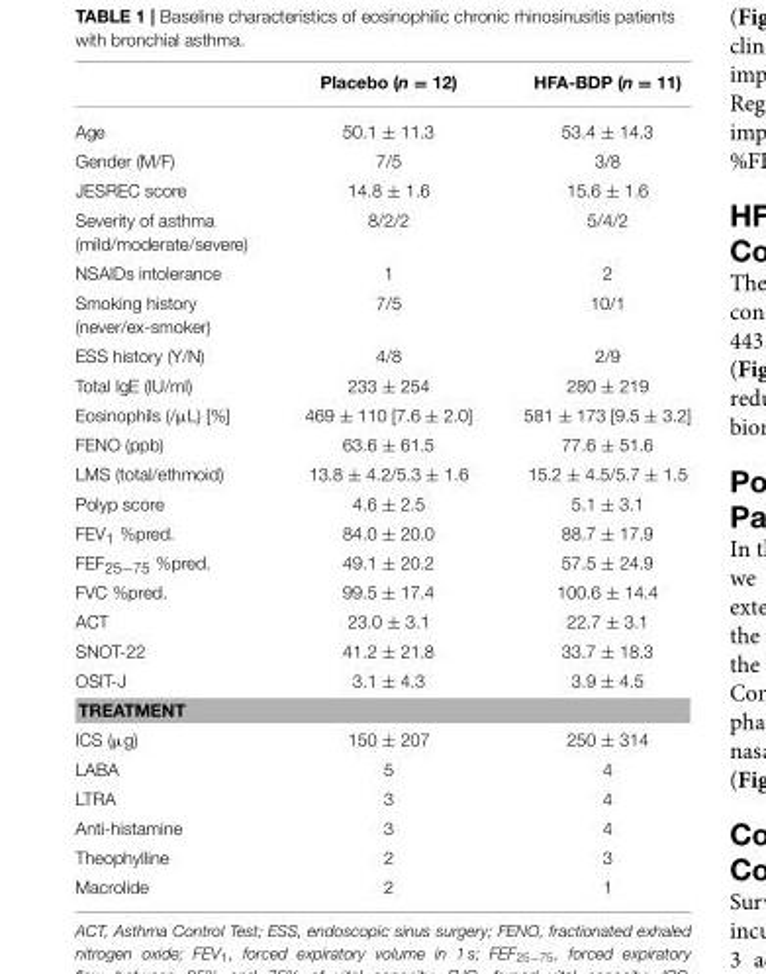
<table><thead><tr><td></td><td>Placebo (n = 12)</td><td>HFA-BDP (n = 11)</td></tr></thead><tbody><tr><td>Age</td><td>50.1 ± 11.3</td><td>53.4 ± 14.3</td></tr><tr><td>Gender (M/F)</td><td>7/5</td><td>3/8</td></tr><tr><td>JESREC score</td><td>14.8 ± 1.6</td><td>15.6 ± 1.6</td></tr><tr><td>Severity of asthma (mild/moderate/severe)</td><td>8/2/2</td><td>5/4/2</td></tr><tr><td>NSAIDs intolerance</td><td>1</td><td>2</td></tr><tr><td>Smoking history (never/ex-smoker)</td><td>7/5</td><td>10/1</td></tr><tr><td>ESS history (Y/N)</td><td>4/8</td><td>2/9</td></tr><tr><td>Total IgE (IU/ml)</td><td>233 ± 254</td><td>280 ± 219</td></tr><tr><td>Eosinophils (/µL) [%]</td><td>469 ± 110 [7.6 ± 2.0]</td><td>581 ± 173 [9.5 ± 3.2]</td></tr><tr><td>FENO (ppb)</td><td>63.6 ± 61.5</td><td>77.6 ± 51.6</td></tr><tr><td>LMS (total/ethmoid)</td><td>13.8 ± 4.2/5.3 ± 1.6</td><td>15.2 ± 4.5/5.7 ± 1.5</td></tr><tr><td>Polyp score</td><td>4.6 ± 2.5</td><td>5.1 ± 3.1</td></tr><tr><td>FEV<sub>1</sub> %pred.</td><td>84.0 ± 20.0</td><td>88.7 ± 17.9</td></tr><tr><td>FEF<sub>25−75</sub> %pred.</td><td>49.1 ± 20.2</td><td>57.5 ± 24.9</td></tr><tr><td>FVC %pred.</td><td>99.5 ± 17.4</td><td>100.6 ± 14.4</td></tr><tr><td>ACT</td><td>23.0 ± 3.1</td><td>22.7 ± 3.1</td></tr><tr><td>SNOT-22</td><td>41.2 ± 21.8</td><td>33.7 ± 18.3</td></tr><tr><td>OSIT-J</td><td>3.1 ± 4.3</td><td>3.9 ± 4.5</td></tr><tr><td colspan="3">TREATMENT</td></tr><tr><td>ICS (µg)</td><td>150 ± 207</td><td>250 ± 314</td></tr><tr><td>LABA</td><td>5</td><td>4</td></tr><tr><td>LTRA</td><td>3</td><td>4</td></tr><tr><td>Anti-histamine</td><td>3</td><td>4</td></tr><tr><td>Theophylline</td><td>2</td><td>3</td></tr><tr><td>Macrolide</td><td>2</td><td>1</td></tr></tbody></table>